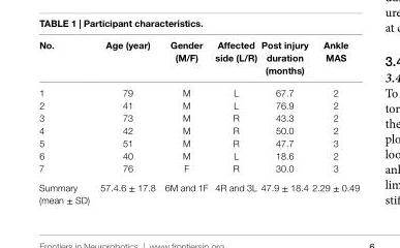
<table><thead><tr><td>no.</td><td>age (year)</td><td>gender (M/F)</td><td>affected side (l/r)</td><td>Post injury duration (months)</td><td>ankle Mas</td></tr></thead><tbody><tr><td>1</td><td>79</td><td>M</td><td>L</td><td>67.7</td><td>2</td></tr><tr><td>2</td><td>41</td><td>M</td><td>L</td><td>76.9</td><td>2</td></tr><tr><td>3</td><td>73</td><td>M</td><td>R</td><td>43.3</td><td>2</td></tr><tr><td>4</td><td>42</td><td>M</td><td>R</td><td>50.0</td><td>2</td></tr><tr><td>5</td><td>51</td><td>M</td><td>R</td><td>47.7</td><td>3</td></tr><tr><td>6</td><td>40</td><td>M</td><td>L</td><td>18.6</td><td>2</td></tr><tr><td>7</td><td>76</td><td>F</td><td>R</td><td>30.0</td><td>3</td></tr><tr><td>Summary (mean ± SD)</td><td>57.4.6 ± 17.8</td><td>6M and 1F</td><td>4R and 3L</td><td>47.9 ± 18.4</td><td>2.29 ± 0.49</td></tr></tbody></table>